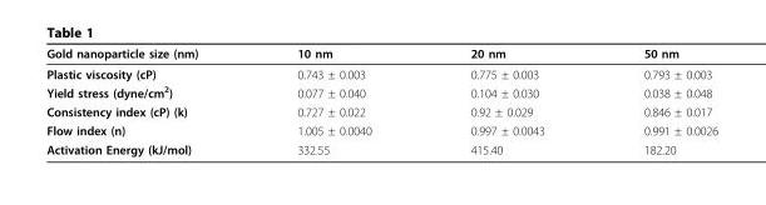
<table><thead><tr><td>Gold nanoparticle size (nm)</td><td>10 nm</td><td>20 nm</td><td>50 nm</td></tr></thead><tbody><tr><td>Plastic viscosity (cP)</td><td>0.743 ± 0.003</td><td>0.775 ± 0.003</td><td>0.793 ± 0.003</td></tr><tr><td>Yield stress (dyne/cm<sup>2</sup>)</td><td>0.077 ± 0.040</td><td>0.104 ± 0.030</td><td>0.038 ± 0.048</td></tr><tr><td>Consistency index (cP) (k)</td><td>0.727 ± 0.022</td><td>0.92 ± 0.029</td><td>0.846 ± 0.017</td></tr><tr><td>Flow index (n)</td><td>1.005 ± 0.0040</td><td>0.997 ± 0.0043</td><td>0.991 ± 0.0026</td></tr><tr><td>Activation Energy (kJ/mol)</td><td>332.55</td><td>415.40</td><td>182.20</td></tr></tbody></table>